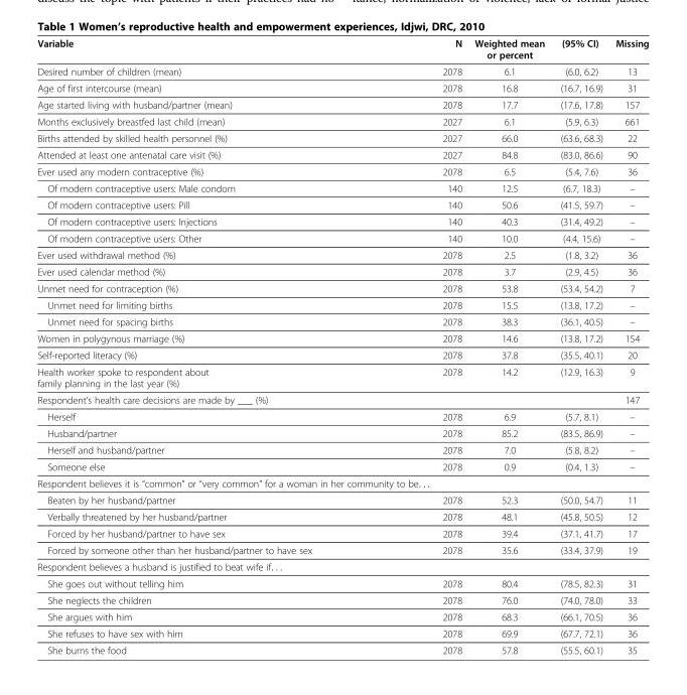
<table><thead><tr><td>Variable</td><td>N</td><td>Weighted mean or percent</td><td>(95% CI)</td><td>Missing</td></tr></thead><tbody><tr><td>Desired number of children (mean)</td><td>2078</td><td>6.1</td><td>(6.0, 6.2)</td><td>13</td></tr><tr><td>Age of first intercourse (mean)</td><td>2078</td><td>16.8</td><td>(16.7, 16.9)</td><td>31</td></tr><tr><td>Age started living with husband/partner (mean)</td><td>2078</td><td>17.7</td><td>(17.6, 17.8)</td><td>157</td></tr><tr><td>Months exclusively breastfed last child (mean)</td><td>2027</td><td>6.1</td><td>(5.9, 6.3)</td><td>661</td></tr><tr><td>Births attended by skilled health personnel (%)</td><td>2027</td><td>66.0</td><td>(63.6, 68.3)</td><td>22</td></tr><tr><td>Attended at least one antenatal care visit (%)</td><td>2027</td><td>84.8</td><td>(83.0, 86.6)</td><td>90</td></tr><tr><td>Ever used any modern contraceptive (%)</td><td>2078</td><td>6.5</td><td>(5.4, 7.6)</td><td>36</td></tr><tr><td>Of modern contraceptive users: Male condom</td><td>140</td><td>12.5</td><td>(6.7, 18.3)</td><td>–</td></tr><tr><td>Of modern contraceptive users: Pill</td><td>140</td><td>50.6</td><td>(41.5, 59.7)</td><td>–</td></tr><tr><td>Of modern contraceptive users: Injections</td><td>140</td><td>40.3</td><td>(31.4, 49.2)</td><td>–</td></tr><tr><td>Of modern contraceptive users: Other</td><td>140</td><td>10.0</td><td>(4.4, 15.6)</td><td>–</td></tr><tr><td>Ever used withdrawal method (%)</td><td>2078</td><td>2.5</td><td>(1.8, 3.2)</td><td>36</td></tr><tr><td>Ever used calendar method (%)</td><td>2078</td><td>3.7</td><td>(2.9, 4.5)</td><td>36</td></tr><tr><td>Unmet need for contraception (%)</td><td>2078</td><td>53.8</td><td>(53.4, 54.2)</td><td>7</td></tr><tr><td>Unmet need for limiting births</td><td>2078</td><td>15.5</td><td>(13.8, 17.2)</td><td>–</td></tr><tr><td>Unmet need for spacing births</td><td>2078</td><td>38.3</td><td>(36.1, 40.5)</td><td>–</td></tr><tr><td>Women in polygynous marriage (%)</td><td>2078</td><td>14.6</td><td>(13.8, 17.2)</td><td>154</td></tr><tr><td>Self-reported literacy (%)</td><td>2078</td><td>37.8</td><td>(35.5, 40.1)</td><td>20</td></tr><tr><td>Health worker spoke to respondent about family planning in the last year (%)</td><td>2078</td><td>14.2</td><td>(12.9, 16.3)</td><td>9</td></tr><tr><td>Respondent’s health care decisions are made by ___ (%)</td><td></td><td></td><td></td><td>147</td></tr><tr><td>Herself</td><td>2078</td><td>6.9</td><td>(5.7, 8.1)</td><td>–</td></tr><tr><td>Husband/partner</td><td>2078</td><td>85.2</td><td>(83.5, 86.9)</td><td>–</td></tr><tr><td>Herself and husband/partner</td><td>2078</td><td>7.0</td><td>(5.8, 8.2)</td><td>–</td></tr><tr><td>Someone else</td><td>2078</td><td>0.9</td><td>(0.4, 1.3)</td><td>–</td></tr><tr><td colspan="5">Respondent believes it is “common” or “very common” for a woman in her community to be. . .</td></tr><tr><td>Beaten by her husband/partner</td><td>2078</td><td>52.3</td><td>(50.0, 54.7)</td><td>11</td></tr><tr><td>Verbally threatened by her husband/partner</td><td>2078</td><td>48.1</td><td>(45.8, 50.5)</td><td>12</td></tr><tr><td>Forced by her husband/partner to have sex</td><td>2078</td><td>39.4</td><td>(37.1, 41.7)</td><td>17</td></tr><tr><td>Forced by someone other than her husband/partner to have sex</td><td>2078</td><td>35.6</td><td>(33.4, 37.9)</td><td>19</td></tr><tr><td colspan="5">Respondent believes a husband is justified to beat wife if. . .</td></tr><tr><td>She goes out without telling him</td><td>2078</td><td>80.4</td><td>(78.5, 82.3)</td><td>31</td></tr><tr><td>She neglects the children</td><td>2078</td><td>76.0</td><td>(74.0, 78.0)</td><td>33</td></tr><tr><td>She argues with him</td><td>2078</td><td>68.3</td><td>(66.1, 70.5)</td><td>36</td></tr><tr><td>She refuses to have sex with him</td><td>2078</td><td>69.9</td><td>(67.7, 72.1)</td><td>36</td></tr><tr><td>She burns the food</td><td>2078</td><td>57.8</td><td>(55.5, 60.1)</td><td>35</td></tr></tbody></table>